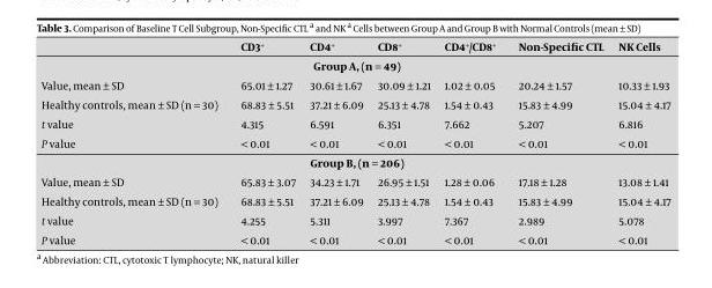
<table><thead><tr><td></td><td>CD3<sup>+</sup></td><td>CD4<sup>+</sup></td><td>CD8<sup>+</sup></td><td>CD4<sup>+</sup>/CD8<sup>+</sup></td><td>Non-Specific CTL</td><td>NK Cells</td></tr></thead><tbody><tr><td colspan="7">Group A, (n = 49)</td></tr><tr><td>Value, mean ± SD</td><td>65.01 ± 1.27</td><td>30.61 ± 1.67</td><td>30.09 ± 1.21</td><td>1.02 ± 0.05</td><td>20.24 ± 1.57</td><td>10.33 ± 1.93</td></tr><tr><td>Healthy controls, mean ± SD (n = 30)</td><td>68.83 ± 5.51</td><td>37.21 ± 6.09</td><td>25.13 ± 4.78</td><td>1.54 ± 0.43</td><td>15.83 ± 4.99</td><td>15.04 ± 4.17</td></tr><tr><td>t value</td><td>4.315</td><td>6.591</td><td>6.351</td><td>7.662</td><td>5.207</td><td>6.816</td></tr><tr><td>P value</td><td>&lt; 0.01</td><td>&lt; 0.01</td><td>&lt; 0.01</td><td>&lt; 0.01</td><td>&lt; 0.01</td><td>&lt; 0.01</td></tr><tr><td colspan="7">Group B, (n = 206)</td></tr><tr><td>Value, mean ± SD</td><td>65.83 ± 3.07</td><td>34.23 ± 1.71</td><td>26.95 ± 1.51</td><td>1.28 ± 0.06</td><td>17.18 ± 1.28</td><td>13.08 ± 1.41</td></tr><tr><td>Healthy controls, mean ± SD (n = 30)</td><td>68.83 ± 5.51</td><td>37.21 ± 6.09</td><td>25.13 ± 4.78</td><td>1.54 ± 0.43</td><td>15.83 ± 4.99</td><td>15.04 ± 4.17</td></tr><tr><td>t value</td><td>4.255</td><td>5.311</td><td>3.997</td><td>7.367</td><td>2.989</td><td>5.078</td></tr><tr><td>P value</td><td>&lt; 0.01</td><td>&lt; 0.01</td><td>&lt; 0.01</td><td>&lt; 0.01</td><td>&lt; 0.01</td><td>&lt; 0.01</td></tr></tbody></table>